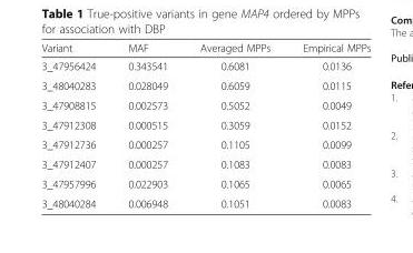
<table><thead><tr><td>Variant</td><td>MAF</td><td>Averaged MPPs</td><td>Empirical MPPs</td></tr></thead><tbody><tr><td>3_47956424</td><td>0.343541</td><td>0.6081</td><td>0.0136</td></tr><tr><td>3_48040283</td><td>0.028049</td><td>0.6059</td><td>0.0115</td></tr><tr><td>3_47908815</td><td>0.002573</td><td>0.5052</td><td>0.0049</td></tr><tr><td>3_47912308</td><td>0.000515</td><td>0.3059</td><td>0.0152</td></tr><tr><td>3_47912736</td><td>0.000257</td><td>0.1105</td><td>0.0099</td></tr><tr><td>3_47912407</td><td>0.000257</td><td>0.1083</td><td>0.0083</td></tr><tr><td>3_47957996</td><td>0.022903</td><td>0.1065</td><td>0.0065</td></tr><tr><td>3_48040284</td><td>0.006948</td><td>0.1051</td><td>0.0083</td></tr></tbody></table>